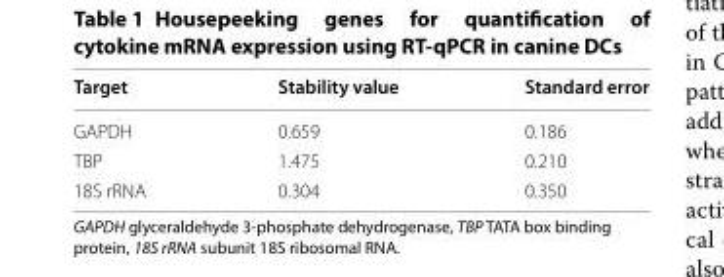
<table><thead><tr><td>Target</td><td>Stability value</td><td>Standard error</td></tr></thead><tbody><tr><td>GAPDH</td><td>0.659</td><td>0.186</td></tr><tr><td>TBP</td><td>1.475</td><td>0.210</td></tr><tr><td>18S rRNA</td><td>0.304</td><td>0.350</td></tr></tbody></table>